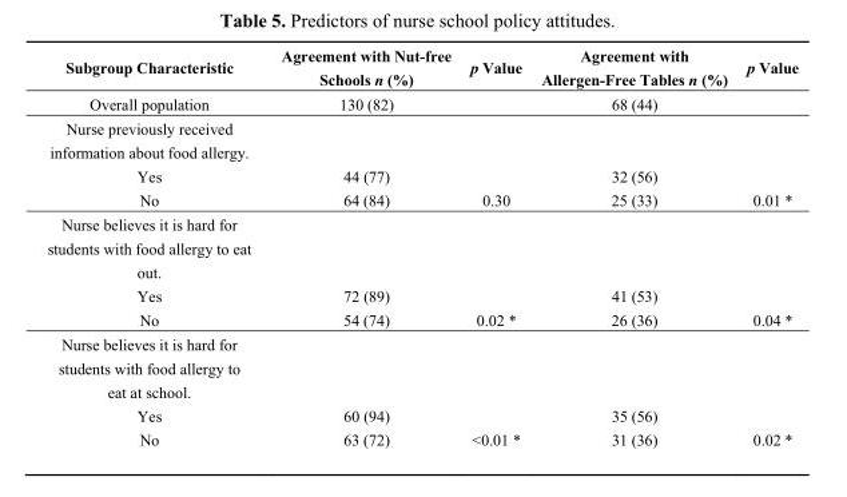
<table><thead><tr><td>Subgroup Characteristic</td><td>Agreement with Nut-free Schools n (%)</td><td>p Value</td><td>Agreement with Allergen-Free Tables n (%)</td><td>p Value</td></tr></thead><tbody><tr><td>Overall population</td><td>130 (82)</td><td></td><td>68 (44)</td><td></td></tr><tr><td colspan="5">Nurse previously received information about food allergy.</td></tr><tr><td>Yes</td><td>44 (77)</td><td></td><td>32 (56)</td><td></td></tr><tr><td>No</td><td>64 (84)</td><td>0.30</td><td>25 (33)</td><td>0.01 *</td></tr><tr><td colspan="5">Nurse believes it is hard for students with food allergy to eat out.</td></tr><tr><td>Yes</td><td>72 (89)</td><td></td><td>41 (53)</td><td></td></tr><tr><td>No</td><td>54 (74)</td><td>0.02 *</td><td>26 (36)</td><td>0.04 *</td></tr><tr><td colspan="5">Nurse believes it is hard for students with food allergy to eat at school.</td></tr><tr><td>Yes</td><td>60 (94)</td><td></td><td>35 (56)</td><td></td></tr><tr><td>No</td><td>63 (72)</td><td>&lt;0.01 *</td><td>31 (36)</td><td>0.02 *</td></tr></tbody></table>